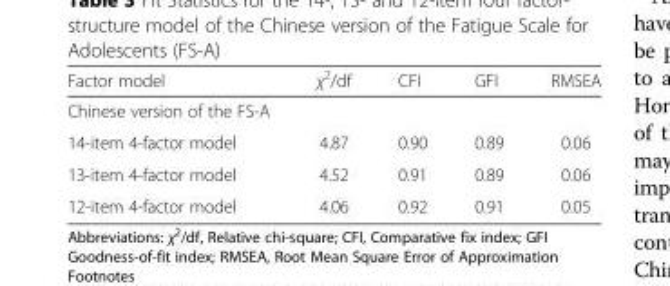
<table><thead><tr><td>Factor model</td><td>χ<sup>2</sup>/df</td><td>CFI</td><td>GFI</td><td>RMSEA</td></tr></thead><tbody><tr><td colspan="5">Chinese version of the FS-A</td></tr><tr><td>14-item 4-factor model</td><td>4.87</td><td>0.90</td><td>0.89</td><td>0.06</td></tr><tr><td>13-item 4-factor model</td><td>4.52</td><td>0.91</td><td>0.89</td><td>0.06</td></tr><tr><td>12-item 4-factor model</td><td>4.06</td><td>0.92</td><td>0.91</td><td>0.05</td></tr></tbody></table>